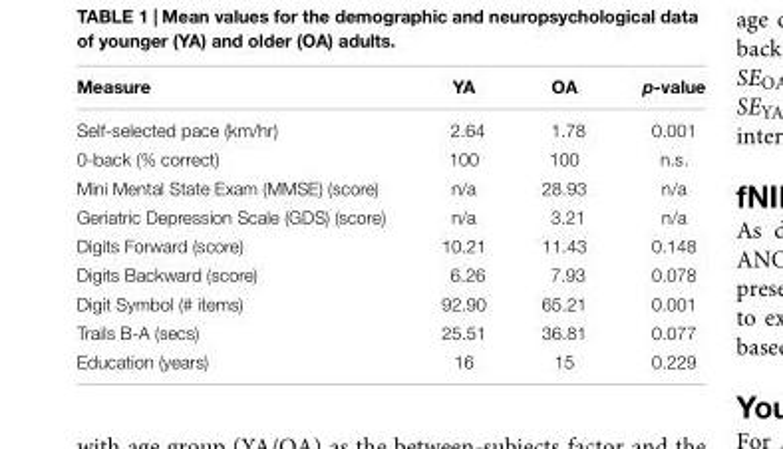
<table><thead><tr><td>Measure</td><td>YA</td><td>OA</td><td>p-value</td></tr></thead><tbody><tr><td>Self-selected pace (km/hr)</td><td>2.64</td><td>1.78</td><td>0.001</td></tr><tr><td>0-back (% correct)</td><td>100</td><td>100</td><td>n.s.</td></tr><tr><td>Mini Mental State Exam (MMSE) (score)</td><td>n/a</td><td>28.93</td><td>n/a</td></tr><tr><td>Geriatric Depression Scale (GDS) (score)</td><td>n/a</td><td>3.21</td><td>n/a</td></tr><tr><td>Digits Forward (score)</td><td>10.21</td><td>11.43</td><td>0.148</td></tr><tr><td>Digits Backward (score)</td><td>6.26</td><td>7.93</td><td>0.078</td></tr><tr><td>Digit Symbol (# items)</td><td>92.90</td><td>65.21</td><td>0.001</td></tr><tr><td>Trails B-A (secs)</td><td>25.51</td><td>36.81</td><td>0.077</td></tr><tr><td>Education (years)</td><td>16</td><td>15</td><td>0.229</td></tr></tbody></table>